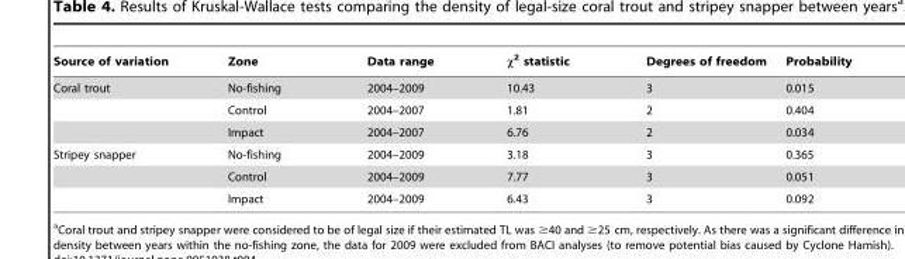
<table><thead><tr><td>Source of variation</td><td>Zone</td><td>Data range</td><td>χ<sup>2</sup> statistic</td><td>Degrees of freedom</td><td>Probability</td></tr></thead><tbody><tr><td rowspan="3">Coral trout</td><td>No-fishing</td><td>2004–2009</td><td>10.43</td><td>3</td><td>0.015</td></tr><tr><td>Control</td><td>2004–2007</td><td>1.81</td><td>2</td><td>0.404</td></tr><tr><td>Impact</td><td>2004–2007</td><td>6.76</td><td>2</td><td>0.034</td></tr><tr><td rowspan="3">Stripey snapper</td><td>No-fishing</td><td>2004–2009</td><td>3.18</td><td>3</td><td>0.365</td></tr><tr><td>Control</td><td>2004–2009</td><td>7.77</td><td>3</td><td>0.051</td></tr><tr><td>Impact</td><td>2004–2009</td><td>6.43</td><td>3</td><td>0.092</td></tr></tbody></table>